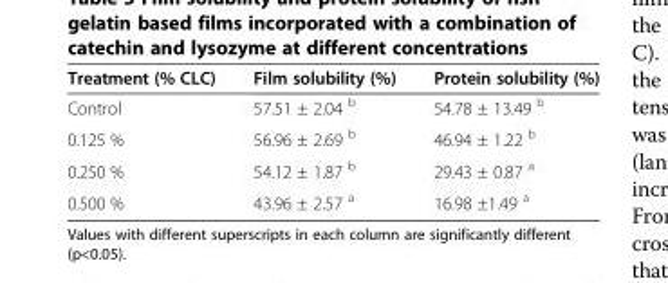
<table><thead><tr><td>Treatment (% CLC)</td><td>Film solubility (%)</td><td>Protein solubility (%)</td></tr></thead><tbody><tr><td>Control</td><td>57.51 ± 2.04 <sup>b</sup></td><td>54.78 ± 13.49 <sup>b</sup></td></tr><tr><td>0.125 %</td><td>56.96 ± 2.69 <sup>b</sup></td><td>46.94 ± 1.22 <sup>b</sup></td></tr><tr><td>0.250 %</td><td>54.12 ± 1.87 <sup>b</sup></td><td>29.43 ± 0.87 <sup>a</sup></td></tr><tr><td>0.500 %</td><td>43.96 ± 2.57 <sup>a</sup></td><td>16.98 ±1.49 <sup>a</sup></td></tr></tbody></table>